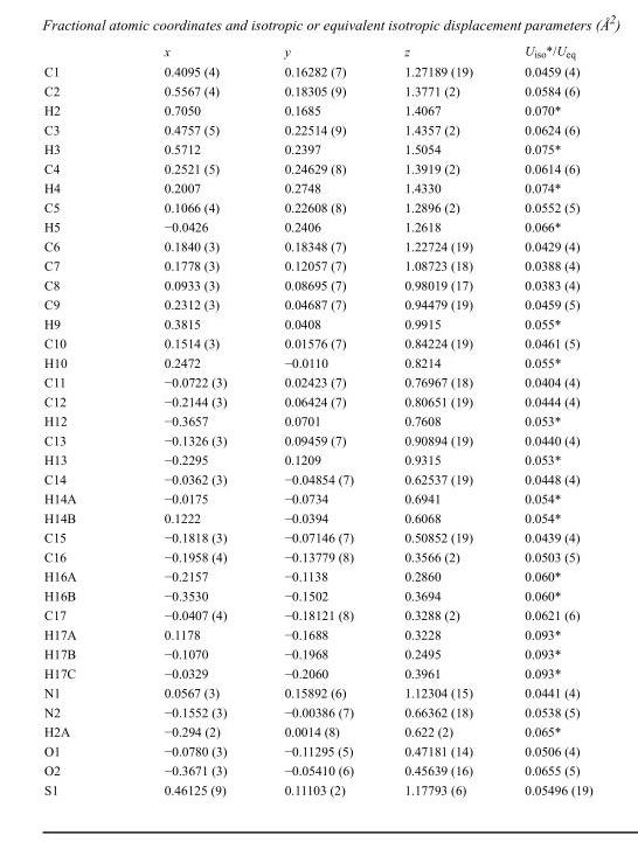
<table><thead><tr><td></td><td>x</td><td>y</td><td>z</td><td>U<sub>iso</sub>*/U<sub>eq</sub></td></tr></thead><tbody><tr><td>C1</td><td>0.4095 (4)</td><td>0.16282 (7)</td><td>1.27189 (19)</td><td>0.0459 (4)</td></tr><tr><td>C2</td><td>0.5567 (4)</td><td>0.18305 (9)</td><td>1.3771 (2)</td><td>0.0584 (6)</td></tr><tr><td>H2</td><td>0.7050</td><td>0.1685</td><td>1.4067</td><td>0.070*</td></tr><tr><td>C3</td><td>0.4757 (5)</td><td>0.22514 (9)</td><td>1.4357 (2)</td><td>0.0624 (6)</td></tr><tr><td>H3</td><td>0.5712</td><td>0.2397</td><td>1.5054</td><td>0.075*</td></tr><tr><td>C4</td><td>0.2521 (5)</td><td>0.24629 (8)</td><td>1.3919 (2)</td><td>0.0614 (6)</td></tr><tr><td>H4</td><td>0.2007</td><td>0.2748</td><td>1.4330</td><td>0.074*</td></tr><tr><td>C5</td><td>0.1066 (4)</td><td>0.22608 (8)</td><td>1.2896 (2)</td><td>0.0552 (5)</td></tr><tr><td>H5</td><td>−0.0426</td><td>0.2406</td><td>1.2618</td><td>0.066*</td></tr><tr><td>C6</td><td>0.1840 (3)</td><td>0.18348 (7)</td><td>1.22724 (19)</td><td>0.0429 (4)</td></tr><tr><td>C7</td><td>0.1778 (3)</td><td>0.12057 (7)</td><td>1.08723 (18)</td><td>0.0388 (4)</td></tr><tr><td>C8</td><td>0.0933 (3)</td><td>0.08695 (7)</td><td>0.98019 (17)</td><td>0.0383 (4)</td></tr><tr><td>C9</td><td>0.2312 (3)</td><td>0.04687 (7)</td><td>0.94479 (19)</td><td>0.0459 (5)</td></tr><tr><td>H9</td><td>0.3815</td><td>0.0408</td><td>0.9915</td><td>0.055*</td></tr><tr><td>C10</td><td>0.1514 (3)</td><td>0.01576 (7)</td><td>0.84224 (19)</td><td>0.0461 (5)</td></tr><tr><td>H10</td><td>0.2472</td><td>−0.0110</td><td>0.8214</td><td>0.055*</td></tr><tr><td>C11</td><td>−0.0722 (3)</td><td>0.02423 (7)</td><td>0.76967 (18)</td><td>0.0404 (4)</td></tr><tr><td>C12</td><td>−0.2144 (3)</td><td>0.06424 (7)</td><td>0.80651 (19)</td><td>0.0444 (4)</td></tr><tr><td>H12</td><td>−0.3657</td><td>0.0701</td><td>0.7608</td><td>0.053*</td></tr><tr><td>C13</td><td>−0.1326 (3)</td><td>0.09459 (7)</td><td>0.90894 (19)</td><td>0.0440 (4)</td></tr><tr><td>H13</td><td>−0.2295</td><td>0.1209</td><td>0.9315</td><td>0.053*</td></tr><tr><td>C14</td><td>−0.0362 (3)</td><td>−0.04854 (7)</td><td>0.62537 (19)</td><td>0.0448 (4)</td></tr><tr><td>H14A</td><td>−0.0175</td><td>−0.0734</td><td>0.6941</td><td>0.054*</td></tr><tr><td>H14B</td><td>0.1222</td><td>−0.0394</td><td>0.6068</td><td>0.054*</td></tr><tr><td>C15</td><td>−0.1818 (3)</td><td>−0.07146 (7)</td><td>0.50852 (19)</td><td>0.0439 (4)</td></tr><tr><td>C16</td><td>−0.1958 (4)</td><td>−0.13779 (8)</td><td>0.3566 (2)</td><td>0.0503 (5)</td></tr><tr><td>H16A</td><td>−0.2157</td><td>−0.1138</td><td>0.2860</td><td>0.060*</td></tr><tr><td>H16B</td><td>−0.3530</td><td>−0.1502</td><td>0.3694</td><td>0.060*</td></tr><tr><td>C17</td><td>−0.0407 (4)</td><td>−0.18121 (8)</td><td>0.3288 (2)</td><td>0.0621 (6)</td></tr><tr><td>H17A</td><td>0.1178</td><td>−0.1688</td><td>0.3228</td><td>0.093*</td></tr><tr><td>H17B</td><td>−0.1070</td><td>−0.1968</td><td>0.2495</td><td>0.093*</td></tr><tr><td>H17C</td><td>−0.0329</td><td>−0.2060</td><td>0.3961</td><td>0.093*</td></tr><tr><td>N1</td><td>0.0567 (3)</td><td>0.15892 (6)</td><td>1.12304 (15)</td><td>0.0441 (4)</td></tr><tr><td>N2</td><td>−0.1552 (3)</td><td>−0.00386 (7)</td><td>0.66362 (18)</td><td>0.0538 (5)</td></tr><tr><td>H2A</td><td>−0.294 (2)</td><td>0.0014 (8)</td><td>0.622 (2)</td><td>0.065*</td></tr><tr><td>O1</td><td>−0.0780 (3)</td><td>−0.11295 (5)</td><td>0.47181 (14)</td><td>0.0506 (4)</td></tr><tr><td>O2</td><td>−0.3671 (3)</td><td>−0.05410 (6)</td><td>0.45639 (16)</td><td>0.0655 (5)</td></tr><tr><td>S1</td><td>0.46125 (9)</td><td>0.11103 (2)</td><td>1.17793 (6)</td><td>0.05496 (19)</td></tr></tbody></table>